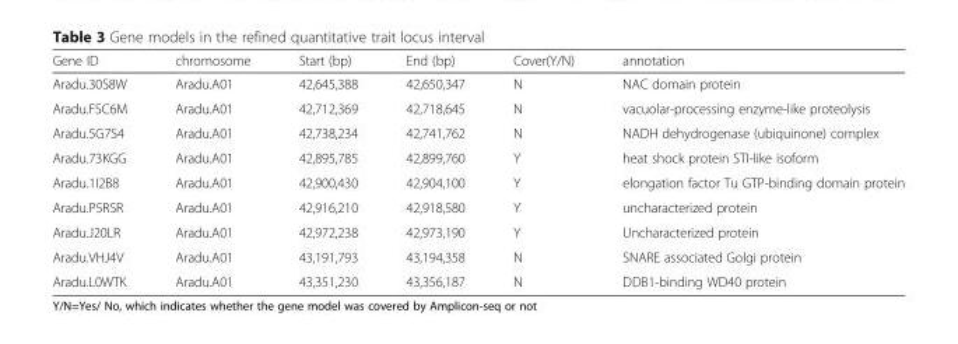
<table><thead><tr><td>Gene ID</td><td>chromosome</td><td>Start (bp)</td><td>End (bp)</td><td>Cover(Y/N)</td><td>annotation</td></tr></thead><tbody><tr><td>Aradu.30S8W</td><td>Aradu.A01</td><td>42,645,388</td><td>42,650,347</td><td>N</td><td>NAC domain protein</td></tr><tr><td>Aradu.FSC6M</td><td>Aradu.A01</td><td>42,712,369</td><td>42,718,645</td><td>N</td><td>vacuolar-processing enzyme-like proteolysis</td></tr><tr><td>Aradu.5G7S4</td><td>Aradu.A01</td><td>42,738,234</td><td>42,741,762</td><td>N</td><td>NADH dehydrogenase (ubiquinone) complex</td></tr><tr><td>Aradu.73KGG</td><td>Aradu.A01</td><td>42,895,785</td><td>42,899,760</td><td>Y</td><td>heat shock protein STI-like isoform</td></tr><tr><td>Aradu.1I2B8</td><td>Aradu.A01</td><td>42,900,430</td><td>42,904,100</td><td>Y</td><td>elongation factor Tu GTP-binding domain protein</td></tr><tr><td>Aradu.P5RSR</td><td>Aradu.A01</td><td>42,916,210</td><td>42,918,580</td><td>Y</td><td>uncharacterized protein</td></tr><tr><td>Aradu.J20LR</td><td>Aradu.A01</td><td>42,972,238</td><td>42,973,190</td><td>Y</td><td>Uncharacterized protein</td></tr><tr><td>Aradu.VHJ4V</td><td>Aradu.A01</td><td>43,191,793</td><td>43,194,358</td><td>N</td><td>SNARE associated Golgi protein</td></tr><tr><td>Aradu.L0WTK</td><td>Aradu.A01</td><td>43,351,230</td><td>43,356,187</td><td>N</td><td>DDB1-binding WD40 protein</td></tr></tbody></table>